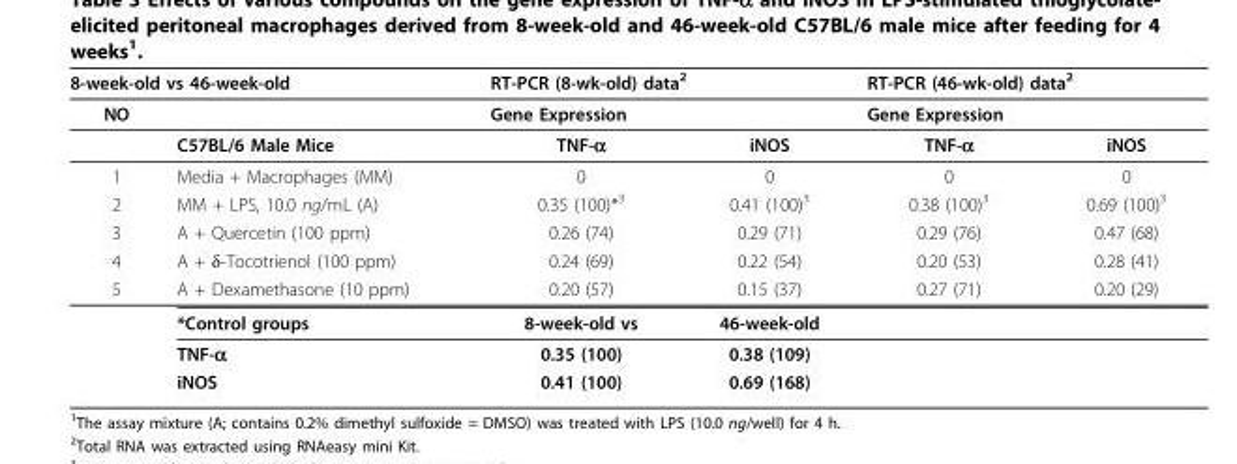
<table><thead><tr><td colspan="2">8-week-old vs 46-week-old</td><td rowspan="2" colspan="2">RT-PCR (8-wk-old) data2 Gene Expression</td><td rowspan="2" colspan="2">RT-PCR (46-wk-old) data2 Gene Expression</td></tr><tr><td rowspan="2">NO</td><td rowspan="2">C57BL/6 Male Mice</td></tr><tr><td>TNF-α</td><td>iNOS</td><td>TNF-α</td><td>iNOS</td></tr></thead><tbody><tr><td>1</td><td>Media + Macrophages (MM)</td><td>0</td><td>0</td><td>0</td><td>0</td></tr><tr><td>2</td><td>MM + LPS, 10.0 ng/mL (A)</td><td>0.35 (100)*<sup>3</sup></td><td>0.41 (100)<sup>3</sup></td><td>0.38 (100)<sup>3</sup></td><td>0.69 (100)<sup>3</sup></td></tr><tr><td>3</td><td>A + Quercetin (100 ppm)</td><td>0.26 (74)</td><td>0.29 (71)</td><td>0.29 (76)</td><td>0.47 (68)</td></tr><tr><td>4</td><td>A + δ-Tocotrienol (100 ppm)</td><td>0.24 (69)</td><td>0.22 (54)</td><td>0.20 (53)</td><td>0.28 (41)</td></tr><tr><td rowspan="4">5</td><td>A + Dexamethasone (10 ppm)</td><td>0.20 (57)</td><td>0.15 (37)</td><td>0.27 (71)</td><td>0.20 (29)</td></tr><tr><td>*Control groups</td><td>8-week-old vs</td><td>46-week-old</td><td></td><td></td></tr><tr><td>TNF-α</td><td>0.35 (100)</td><td>0.38 (109)</td><td></td><td></td></tr><tr><td>iNOS</td><td>0.41 (100)</td><td>0.69 (168)</td><td></td><td></td></tr></tbody></table>